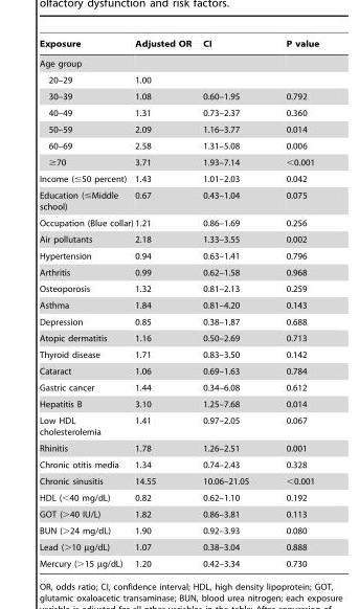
<table><thead><tr><td>Exposure</td><td>Adjusted OR</td><td>CI</td><td>P value</td></tr></thead><tbody><tr><td colspan="4">Age group</td></tr><tr><td>20–29</td><td>1.00</td><td></td><td></td></tr><tr><td>30–39</td><td>1.08</td><td>0.60–1.95</td><td>0.792</td></tr><tr><td>40–49</td><td>1.31</td><td>0.73–2.37</td><td>0.360</td></tr><tr><td>50–59</td><td>2.09</td><td>1.16–3.77</td><td>0.014</td></tr><tr><td>60–69</td><td>2.58</td><td>1.31–5.08</td><td>0.006</td></tr><tr><td>≥70</td><td>3.71</td><td>1.93–7.14</td><td>&lt;0.001</td></tr><tr><td>Income (≤50 percent)</td><td>1.43</td><td>1.01–2.03</td><td>0.042</td></tr><tr><td>Education (≤Middle school)</td><td>0.67</td><td>0.43–1.04</td><td>0.075</td></tr><tr><td>Occupation (Blue collar)</td><td>1.21</td><td>0.86–1.69</td><td>0.256</td></tr><tr><td>Air pollutants</td><td>2.18</td><td>1.33–3.55</td><td>0.002</td></tr><tr><td>Hypertension</td><td>0.94</td><td>0.63–1.41</td><td>0.796</td></tr><tr><td>Arthritis</td><td>0.99</td><td>0.62–1.58</td><td>0.968</td></tr><tr><td>Osteoporosis</td><td>1.32</td><td>0.81–2.13</td><td>0.259</td></tr><tr><td>Asthma</td><td>1.84</td><td>0.81–4.20</td><td>0.143</td></tr><tr><td>Depression</td><td>0.85</td><td>0.38–1.87</td><td>0.688</td></tr><tr><td>Atopic dermatitis</td><td>1.16</td><td>0.50–2.69</td><td>0.713</td></tr><tr><td>Thyroid disease</td><td>1.71</td><td>0.83–3.50</td><td>0.142</td></tr><tr><td>Cataract</td><td>1.06</td><td>0.69–1.63</td><td>0.784</td></tr><tr><td>Gastric cancer</td><td>1.44</td><td>0.34–6.08</td><td>0.612</td></tr><tr><td>Hepatitis B</td><td>3.10</td><td>1.25–7.68</td><td>0.014</td></tr><tr><td>Low HDL cholesterolemia</td><td>1.41</td><td>0.97–2.05</td><td>0.067</td></tr><tr><td>Rhinitis</td><td>1.78</td><td>1.26–2.51</td><td>0.001</td></tr><tr><td>Chronic otitis media</td><td>1.34</td><td>0.74–2.43</td><td>0.328</td></tr><tr><td>Chronic sinusitis</td><td>14.55</td><td>10.06–21.05</td><td>&lt;0.001</td></tr><tr><td>HDL (&lt;40 mg/dL)</td><td>0.82</td><td>0.62–1.10</td><td>0.192</td></tr><tr><td>GOT (&gt;40 IU/L)</td><td>1.82</td><td>0.86–3.81</td><td>0.113</td></tr><tr><td>BUN (&gt;24 mg/dL)</td><td>1.90</td><td>0.92–3.93</td><td>0.080</td></tr><tr><td>Lead (&gt;10 µg/dL)</td><td>1.07</td><td>0.38–3.04</td><td>0.888</td></tr><tr><td>Mercury (&gt;15 µg/dL)</td><td>1.20</td><td>0.42–3.34</td><td>0.730</td></tr></tbody></table>